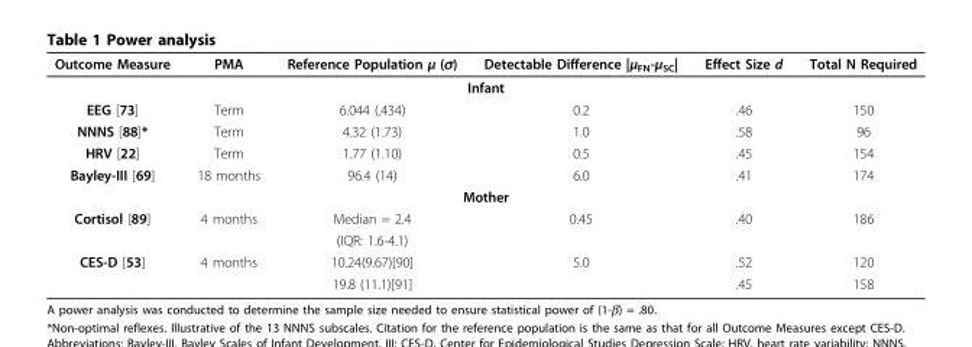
<table><thead><tr><td>Outcome Measure</td><td>PMA</td><td>Reference Population μ (σ)</td><td>Detectable Difference |μ<sub>FN</sub>-μ<sub>SC</sub>|</td><td>Effect Size d</td><td>Total N Required</td></tr></thead><tbody><tr><td colspan="6">Infant</td></tr><tr><td>EEG [73]</td><td>Term</td><td>6.044 (.434)</td><td>0.2</td><td>.46</td><td>150</td></tr><tr><td>NNNS [88]*</td><td>Term</td><td>4.32 (1.73)</td><td>1.0</td><td>.58</td><td>96</td></tr><tr><td>HRV [22]</td><td>Term</td><td>1.77 (1.10)</td><td>0.5</td><td>.45</td><td>154</td></tr><tr><td>Bayley-III [69]</td><td>18 months</td><td>96.4 (14)</td><td>6.0</td><td>.41</td><td>174</td></tr><tr><td colspan="6">Mother</td></tr><tr><td rowspan="2">Cortisol [89]</td><td>4 months</td><td>Median = 2.4</td><td>0.45</td><td>.40</td><td>186</td></tr><tr><td></td><td>(IQR: 1.6-4.1)</td><td></td><td></td><td></td></tr><tr><td rowspan="2">CES-D [53]</td><td>4 months</td><td>10.24(9.67)[90]</td><td>5.0</td><td>.52</td><td>120</td></tr><tr><td></td><td>19.8 (11.1)[91]</td><td></td><td>.45</td><td>158</td></tr></tbody></table>